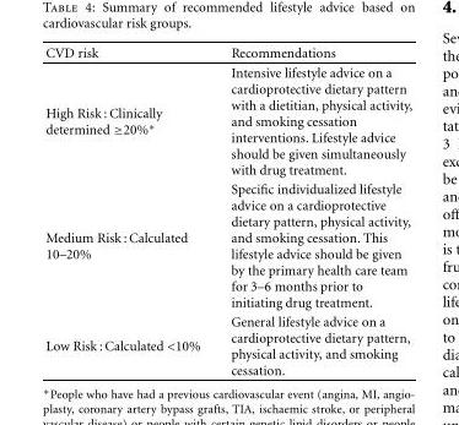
<table><thead><tr><td>CVD risk</td><td>Recommendations</td></tr></thead><tbody><tr><td>High Risk : Clinically determined ≥20%∗</td><td>Intensive lifestyle advice on a cardioprotective dietary pattern with a dietitian, physical activity, and smoking cessation interventions. Lifestyle advice should be given simultaneously with drug treatment.</td></tr><tr><td>Medium Risk : Calculated 10–20%</td><td>Specific individualized lifestyle advice on a cardioprotective dietary pattern, physical activity, and smoking cessation. This lifestyle advice should be given by the primary health care team for 3–6 months prior to initiating drug treatment.</td></tr><tr><td>Low Risk : Calculated &lt;10%</td><td>General lifestyle advice on a cardioprotective dietary pattern, physical activity, and smoking cessation.</td></tr></tbody></table>